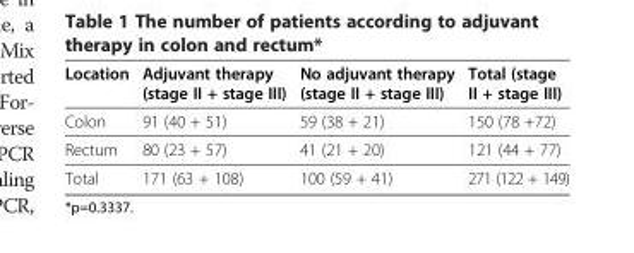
<table><thead><tr><td>Location</td><td>Adjuvant therapy (stage II + stage III)</td><td>No adjuvant therapy (stage II + stage III)</td><td>Total (stage II + stage III)</td></tr></thead><tbody><tr><td>Colon</td><td>91 (40 + 51)</td><td>59 (38 + 21)</td><td>150 (78 +72)</td></tr><tr><td>Rectum</td><td>80 (23 + 57)</td><td>41 (21 + 20)</td><td>121 (44 + 77)</td></tr><tr><td>Total</td><td>171 (63 + 108)</td><td>100 (59 + 41)</td><td>271 (122 + 149)</td></tr></tbody></table>